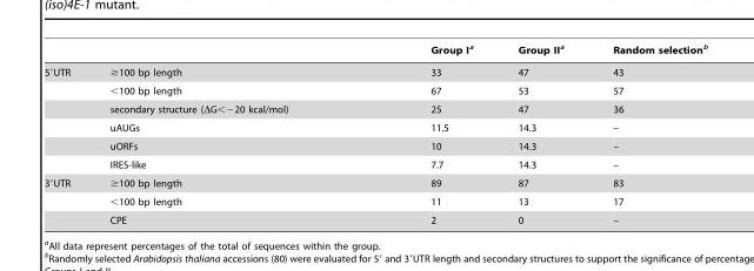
<table><thead><tr><td></td><td></td><td>Group I<sup>a</sup></td><td>Group II<sup>a</sup></td><td>Random selection<sup>b</sup></td></tr></thead><tbody><tr><td rowspan="6">5′UTR</td><td>≥100 bp length</td><td>33</td><td>47</td><td>43</td></tr><tr><td>&lt;100 bp length</td><td>67</td><td>53</td><td>57</td></tr><tr><td>secondary structure (ΔG&lt;−20 kcal/mol)</td><td>25</td><td>47</td><td>36</td></tr><tr><td>uAUGs</td><td>11.5</td><td>14.3</td><td>–</td></tr><tr><td>uORFs</td><td>10</td><td>14.3</td><td>–</td></tr><tr><td>IRES-like</td><td>7.7</td><td>14.3</td><td>–</td></tr><tr><td rowspan="3">3′UTR</td><td>≥100 bp length</td><td>89</td><td>87</td><td>83</td></tr><tr><td>&lt;100 bp length</td><td>11</td><td>13</td><td>17</td></tr><tr><td>CPE</td><td>2</td><td>0</td><td>–</td></tr></tbody></table>